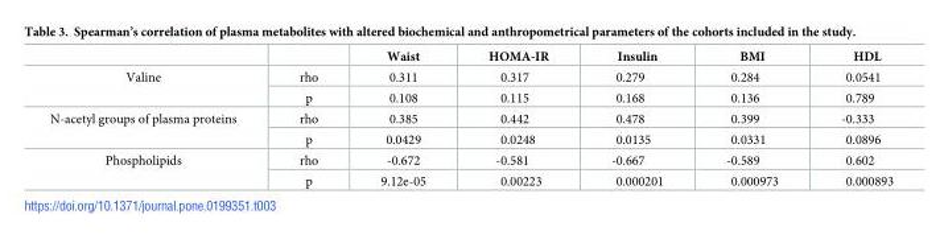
<table><thead><tr><td></td><td></td><td>Waist</td><td>HOMA-IR</td><td>Insulin</td><td>BMI</td><td>HDL</td></tr></thead><tbody><tr><td rowspan="2">Valine</td><td>rho</td><td>0.311</td><td>0.317</td><td>0.279</td><td>0.284</td><td>0.0541</td></tr><tr><td>p</td><td>0.108</td><td>0.115</td><td>0.168</td><td>0.136</td><td>0.789</td></tr><tr><td rowspan="2">N-acetyl groups of plasma proteins</td><td>rho</td><td>0.385</td><td>0.442</td><td>0.478</td><td>0.399</td><td>-0.333</td></tr><tr><td>p</td><td>0.0429</td><td>0.0248</td><td>0.0135</td><td>0.0331</td><td>0.0896</td></tr><tr><td rowspan="2">Phospholipids</td><td>rho</td><td>-0.672</td><td>-0.581</td><td>-0.667</td><td>-0.589</td><td>0.602</td></tr><tr><td>p</td><td>9.12e-05</td><td>0.00223</td><td>0.000201</td><td>0.000973</td><td>0.000893</td></tr></tbody></table>